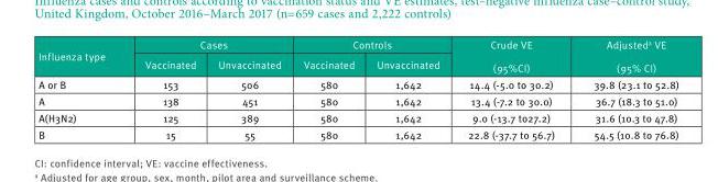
<table><thead><tr><td rowspan="2">Influenza type</td><td colspan="2">Cases</td><td colspan="2">Controls</td><td rowspan="2">Crude VE (95%CI)</td><td rowspan="2">Adjusted<sup>a</sup> VE (95% CI)</td></tr><tr><td>Vaccinated</td><td>Unvaccinated</td><td>Vaccinated</td><td>Unvaccinated</td></tr></thead><tbody><tr><td>A or B</td><td>153</td><td>506</td><td>580</td><td>1,642</td><td>14.4 (-5.0 to 30.2)</td><td>39.8 (23.1 to 52.8)</td></tr><tr><td>A</td><td>138</td><td>451</td><td>580</td><td>1,642</td><td>13.4 (-7.2 to 30.0)</td><td>36.7 (18.3 to 51.0)</td></tr><tr><td>A(H3N2)</td><td>125</td><td>389</td><td>580</td><td>1,642</td><td>9.0 (-13.7 to27.2)</td><td>31.6 (10.3 to 47.8)</td></tr><tr><td>B</td><td>15</td><td>55</td><td>580</td><td>1,642</td><td>22.8 (-37.7 to 56.7)</td><td>54.5 (10.8 to 76.8)</td></tr></tbody></table>